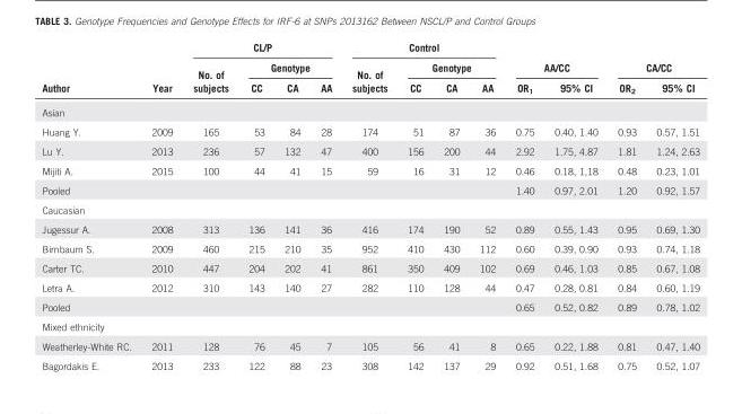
<table><thead><tr><td rowspan="3">Author</td><td rowspan="3">Year</td><td colspan="4">CL/P</td><td colspan="4">Control</td><td></td><td></td><td></td><td></td></tr><tr><td rowspan="2">No. of subjects</td><td colspan="3">Genotype</td><td rowspan="2">No. of subjects</td><td colspan="3">Genotype</td><td colspan="2">AA/CC</td><td colspan="2">CA/CC</td></tr><tr><td>CC</td><td>CA</td><td>AA</td><td>CC</td><td>CA</td><td>AA</td><td>OR<sub>1</sub></td><td>95% CI</td><td>OR<sub>2</sub></td><td>95% CI</td></tr></thead><tbody><tr><td colspan="14">Asian</td></tr><tr><td>Huang Y.</td><td>2009</td><td>165</td><td>53</td><td>84</td><td>28</td><td>174</td><td>51</td><td>87</td><td>36</td><td>0.75</td><td>0.40, 1.40</td><td>0.93</td><td>0.57, 1.51</td></tr><tr><td>Lu Y.</td><td>2013</td><td>236</td><td>57</td><td>132</td><td>47</td><td>400</td><td>156</td><td>200</td><td>44</td><td>2.92</td><td>1.75, 4.87</td><td>1.81</td><td>1.24, 2.63</td></tr><tr><td>Mijiti A.</td><td>2015</td><td>100</td><td>44</td><td>41</td><td>15</td><td>59</td><td>16</td><td>31</td><td>12</td><td>0.46</td><td>0.18, 1,18</td><td>0.48</td><td>0.23, 1.01</td></tr><tr><td>Pooled</td><td></td><td></td><td></td><td></td><td></td><td></td><td></td><td></td><td></td><td>1.40</td><td>0.97, 2.01</td><td>1.20</td><td>0.92, 1.57</td></tr><tr><td colspan="14">Caucasian</td></tr><tr><td>Jugessur A.</td><td>2008</td><td>313</td><td>136</td><td>141</td><td>36</td><td>416</td><td>174</td><td>190</td><td>52</td><td>0.89</td><td>0.55, 1.43</td><td>0.95</td><td>0.69, 1.30</td></tr><tr><td>Birnbaum S.</td><td>2009</td><td>460</td><td>215</td><td>210</td><td>35</td><td>952</td><td>410</td><td>430</td><td>112</td><td>0.60</td><td>0.39, 0.90</td><td>0.93</td><td>0.74, 1.18</td></tr><tr><td>Carter TC.</td><td>2010</td><td>447</td><td>204</td><td>202</td><td>41</td><td>861</td><td>350</td><td>409</td><td>102</td><td>0.69</td><td>0.46, 1.03</td><td>0.85</td><td>0.67, 1.08</td></tr><tr><td>Letra A.</td><td>2012</td><td>310</td><td>143</td><td>140</td><td>27</td><td>282</td><td>110</td><td>128</td><td>44</td><td>0.47</td><td>0.28, 0.81</td><td>0.84</td><td>0.60, 1.19</td></tr><tr><td>Pooled</td><td></td><td></td><td></td><td></td><td></td><td></td><td></td><td></td><td></td><td>0.65</td><td>0.52, 0.82</td><td>0.89</td><td>0.78, 1.02</td></tr><tr><td colspan="14">Mixed ethnicity</td></tr><tr><td>Weatherley-White RC.</td><td>2011</td><td>128</td><td>76</td><td>45</td><td>7</td><td>105</td><td>56</td><td>41</td><td>8</td><td>0.65</td><td>0.22, 1.88</td><td>0.81</td><td>0.47, 1.40</td></tr><tr><td>Bagordakis E.</td><td>2013</td><td>233</td><td>122</td><td>88</td><td>23</td><td>308</td><td>142</td><td>137</td><td>29</td><td>0.92</td><td>0.51, 1.68</td><td>0.75</td><td>0.52, 1.07</td></tr></tbody></table>